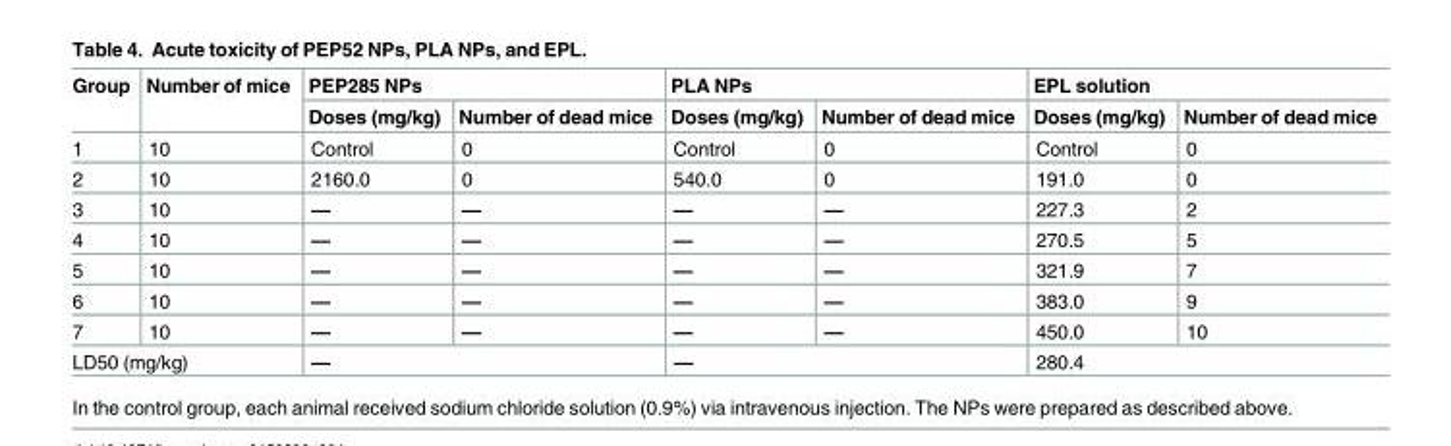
<table><thead><tr><td rowspan="2">Group</td><td rowspan="2">Number of mice</td><td colspan="2">PEP285 NPs</td><td colspan="2">PLA NPs</td><td colspan="2">EPL solution</td></tr><tr><td>Doses (mg/kg)</td><td>Number of dead mice</td><td>Doses (mg/kg)</td><td>Number of dead mice</td><td>Doses (mg/kg)</td><td>Number of dead mice</td></tr></thead><tbody><tr><td>1</td><td>10</td><td>Control</td><td>0</td><td>Control</td><td>0</td><td>Control</td><td>0</td></tr><tr><td>2</td><td>10</td><td>2160.0</td><td>0</td><td>540.0</td><td>0</td><td>191.0</td><td>0</td></tr><tr><td>3</td><td>10</td><td>—</td><td>—</td><td>—</td><td>—</td><td>227.3</td><td>2</td></tr><tr><td>4</td><td>10</td><td>—</td><td>—</td><td>—</td><td>—</td><td>270.5</td><td>5</td></tr><tr><td>5</td><td>10</td><td>—</td><td>—</td><td>—</td><td>—</td><td>321.9</td><td>7</td></tr><tr><td>6</td><td>10</td><td>—</td><td>—</td><td>—</td><td>—</td><td>383.0</td><td>9</td></tr><tr><td>7</td><td>10</td><td>—</td><td>—</td><td>—</td><td>—</td><td>450.0</td><td>10</td></tr><tr><td colspan="2">LD50 (mg/kg)</td><td colspan="2">—</td><td colspan="2">—</td><td colspan="2">280.4</td></tr></tbody></table>